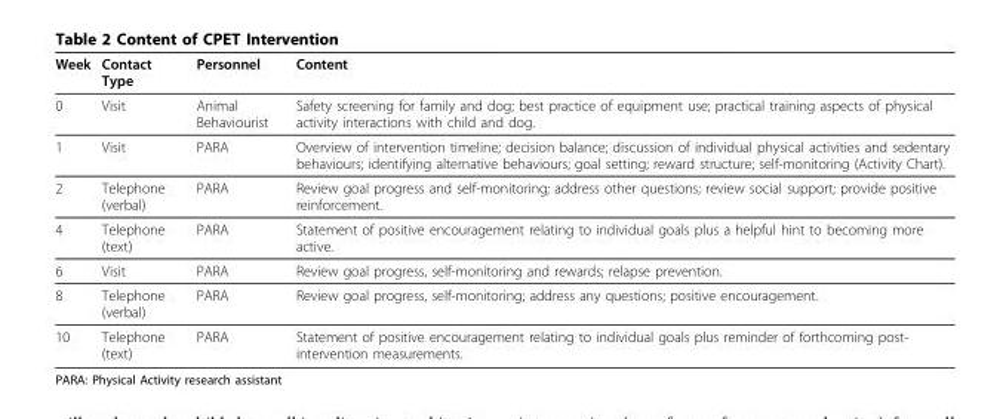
<table><thead><tr><td>Week</td><td>Contact Type</td><td>Personnel</td><td>Content</td></tr></thead><tbody><tr><td>0</td><td>Visit</td><td>Animal Behaviourist</td><td>Safety screening for family and dog; best practice of equipment use; practical training aspects of physical activity interactions with child and dog.</td></tr><tr><td>1</td><td>Visit</td><td>PARA</td><td>Overview of intervention timeline; decision balance; discussion of individual physical activities and sedentary behaviours; identifying alternative behaviours; goal setting; reward structure; self-monitoring (Activity Chart).</td></tr><tr><td>2</td><td>Telephone (verbal)</td><td>PARA</td><td>Review goal progress and self-monitoring; address other questions; review social support; provide positive reinforcement.</td></tr><tr><td>4</td><td>Telephone (text)</td><td>PARA</td><td>Statement of positive encouragement relating to individual goals plus a helpful hint to becoming more active.</td></tr><tr><td>6</td><td>Visit</td><td>PARA</td><td>Review goal progress, self-monitoring and rewards; relapse prevention.</td></tr><tr><td>8</td><td>Telephone (verbal)</td><td>PARA</td><td>Review goal progress, self-monitoring; address any questions; positive encouragement.</td></tr><tr><td>10</td><td>Telephone (text)</td><td>PARA</td><td>Statement of positive encouragement relating to individual goals plus reminder of forthcoming post- intervention measurements.</td></tr></tbody></table>